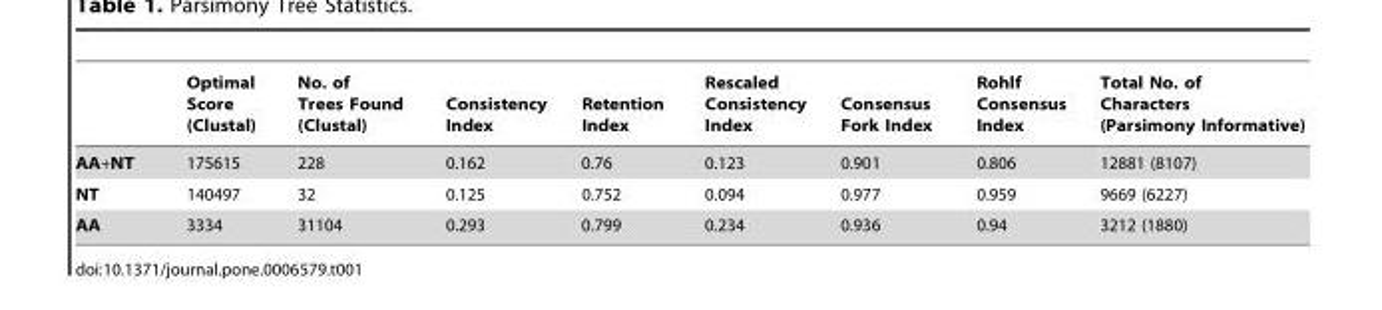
<table><thead><tr><td></td><td>Optimal Score (Clustal)</td><td>No. of Trees Found (Clustal)</td><td>Consistency Index</td><td>Retention Index</td><td>Rescaled Consistency Index</td><td>Consensus Fork Index</td><td>Rohlf Consensus Index</td><td>Total No. of Characters (Parsimony Informative)</td></tr></thead><tbody><tr><td>AA+NT</td><td>175615</td><td>228</td><td>0.162</td><td>0.76</td><td>0.123</td><td>0.901</td><td>0.806</td><td>12881 (8107)</td></tr><tr><td>NT</td><td>140497</td><td>32</td><td>0.125</td><td>0.752</td><td>0.094</td><td>0.977</td><td>0.959</td><td>9669 (6227)</td></tr><tr><td>AA</td><td>3334</td><td>31104</td><td>0.293</td><td>0.799</td><td>0.234</td><td>0.936</td><td>0.94</td><td>3212 (1880)</td></tr></tbody></table>